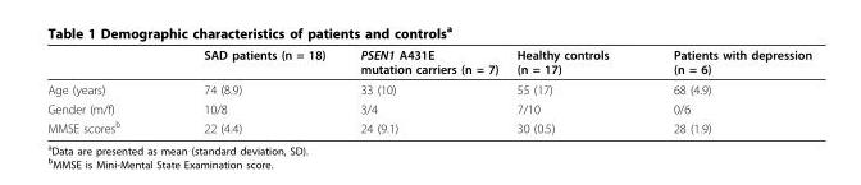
<table><thead><tr><td></td><td>SAD patients (n = 18)</td><td>PSEN1 A431E mutation carriers (n = 7)</td><td>Healthy controls (n = 17)</td><td>Patients with depression (n = 6)</td></tr></thead><tbody><tr><td>Age (years)</td><td>74 (8.9)</td><td>33 (10)</td><td>55 (17)</td><td>68 (4.9)</td></tr><tr><td>Gender (m/f)</td><td>10/8</td><td>3/4</td><td>7/10</td><td>0/6</td></tr><tr><td>MMSE scores<sup>b</sup></td><td>22 (4.4)</td><td>24 (9.1)</td><td>30 (0.5)</td><td>28 (1.9)</td></tr></tbody></table>